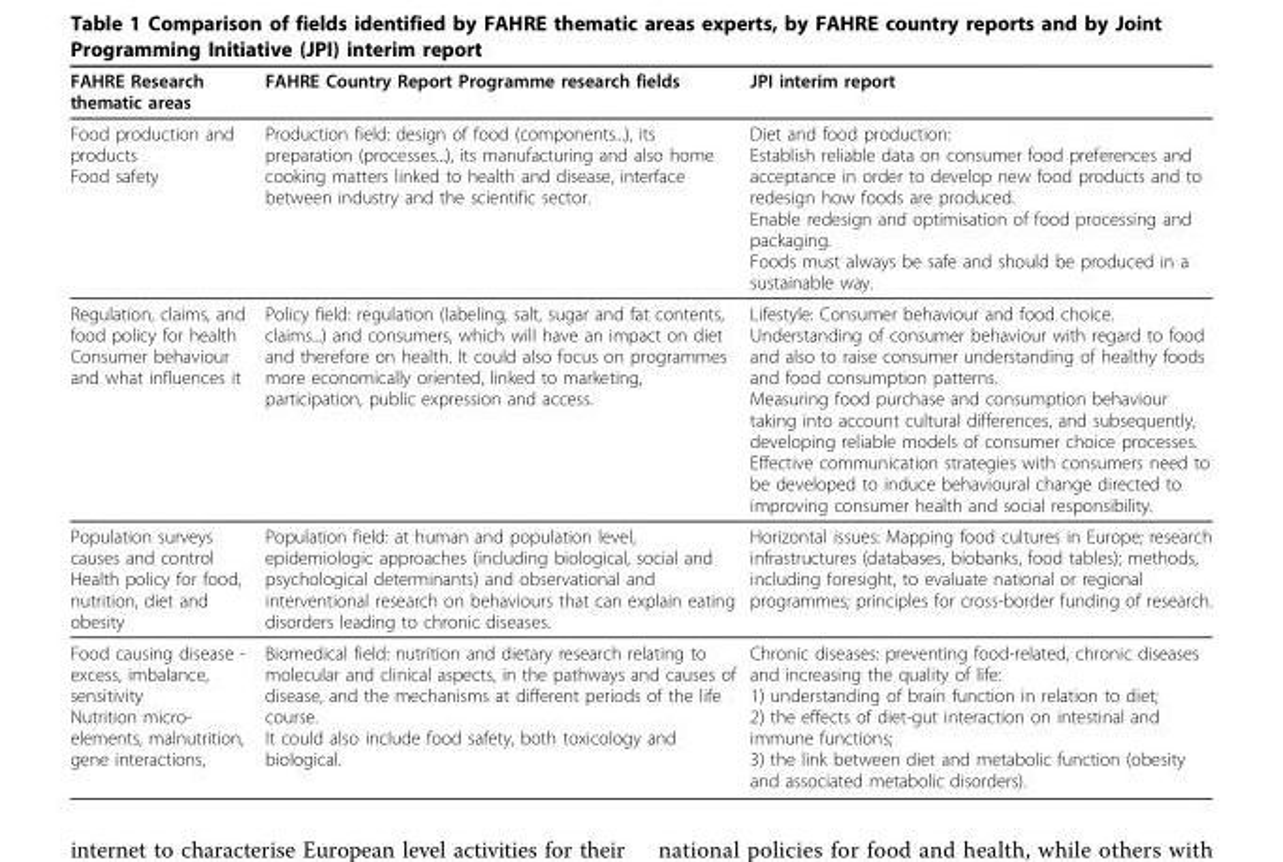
<table><thead><tr><td>FAHRE Research thematic areas</td><td>FAHRE Country Report Programme research fields</td><td>JPI interim report</td></tr></thead><tbody><tr><td>Food production and products Food safety</td><td>Production field: design of food (components...), its preparation (processes...), its manufacturing and also home cooking matters linked to health and disease, interface between industry and the scientific sector.</td><td>Diet and food production: Establish reliable data on consumer food preferences and acceptance in order to develop new food products and to redesign how foods are produced. Enable redesign and optimisation of food processing and packaging. Foods must always be safe and should be produced in a sustainable way.</td></tr><tr><td>Regulation, claims, and food policy for health Consumer behaviour and what influences it</td><td>Policy field: regulation (labeling, salt, sugar and fat contents, claims...) and consumers, which will have an impact on diet and therefore on health. It could also focus on programmes more economically oriented, linked to marketing, participation, public expression and access.</td><td>Lifestyle: Consumer behaviour and food choice. Understanding of consumer behaviour with regard to food and also to raise consumer understanding of healthy foods and food consumption patterns. Measuring food purchase and consumption behaviour taking into account cultural differences, and subsequently, developing reliable models of consumer choice processes. Effective communication strategies with consumers need to be developed to induce behavioural change directed to improving consumer health and social responsibility.</td></tr><tr><td>Population surveys causes and control Health policy for food, nutrition, diet and obesity</td><td>Population field: at human and population level, epidemiologic approaches (including biological, social and psychological determinants) and observational and interventional research on behaviours that can explain eating disorders leading to chronic diseases.</td><td>Horizontal issues: Mapping food cultures in Europe; research infrastructures (databases, biobanks, food tables); methods, including foresight, to evaluate national or regional programmes; principles for cross-border funding of research.</td></tr><tr><td>Food causing disease - excess, imbalance, sensitivity Nutrition micro- elements, malnutrition, gene interactions,</td><td>Biomedical field: nutrition and dietary research relating to molecular and clinical aspects, in the pathways and causes of disease, and the mechanisms at different periods of the life course. It could also include food safety, both toxicology and biological.</td><td>Chronic diseases: preventing food-related, chronic diseases and increasing the quality of life: 1) understanding of brain function in relation to diet; 2) the effects of diet-gut interaction on intestinal and immune functions; 3) the link between diet and metabolic function (obesity and associated metabolic disorders).</td></tr></tbody></table>